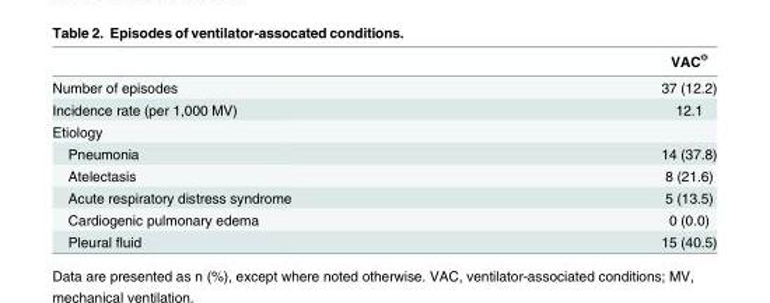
<table><thead><tr><td></td><td>VAC<sup>✽</sup></td></tr></thead><tbody><tr><td>Number of episodes</td><td>37 (12.2)</td></tr><tr><td>Incidence rate (per 1,000 MV)</td><td>12.1</td></tr><tr><td colspan="2">Etiology</td></tr><tr><td>Pneumonia</td><td>14 (37.8)</td></tr><tr><td>Atelectasis</td><td>8 (21.6)</td></tr><tr><td>Acute respiratory distress syndrome</td><td>5 (13.5)</td></tr><tr><td>Cardiogenic pulmonary edema</td><td>0 (0.0)</td></tr><tr><td>Pleural fluid</td><td>15 (40.5)</td></tr></tbody></table>